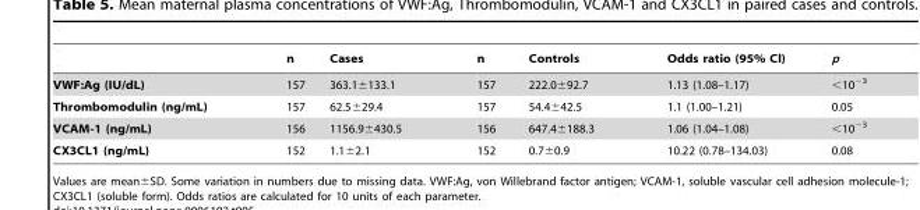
<table><thead><tr><td></td><td>n</td><td>Cases</td><td>n</td><td>Controls</td><td>Odds ratio (95% Cl)</td><td>p</td></tr></thead><tbody><tr><td>VWF:Ag (IU/dL)</td><td>157</td><td>363.1±133.1</td><td>157</td><td>222.0±92.7</td><td>1.13 (1.08–1.17)</td><td>&lt;10<sup>−3</sup></td></tr><tr><td>Thrombomodulin (ng/mL)</td><td>157</td><td>62.5±29.4</td><td>157</td><td>54.4±42.5</td><td>1.1 (1.00–1.21)</td><td>0.05</td></tr><tr><td>VCAM-1 (ng/mL)</td><td>156</td><td>1156.9±430.5</td><td>156</td><td>647.4±188.3</td><td>1.06 (1.04–1.08)</td><td>&lt;10<sup>−3</sup></td></tr><tr><td>CX3CL1 (ng/mL)</td><td>152</td><td>1.1±2.1</td><td>152</td><td>0.7±0.9</td><td>10.22 (0.78–134.03)</td><td>0.08</td></tr></tbody></table>